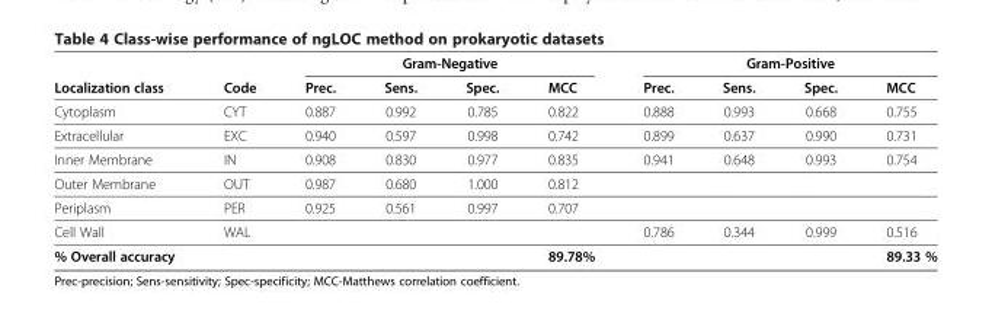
<table><thead><tr><td rowspan="2">Localization class</td><td rowspan="2">Code</td><td colspan="4">Gram-Negative</td><td colspan="4">Gram-Positive</td></tr><tr><td>Prec.</td><td>Sens.</td><td>Spec.</td><td>MCC</td><td>Prec.</td><td>Sens.</td><td>Spec.</td><td>MCC</td></tr></thead><tbody><tr><td>Cytoplasm</td><td>CYT</td><td>0.887</td><td>0.992</td><td>0.785</td><td>0.822</td><td>0.888</td><td>0.993</td><td>0.668</td><td>0.755</td></tr><tr><td>Extracellular</td><td>EXC</td><td>0.940</td><td>0.597</td><td>0.998</td><td>0.742</td><td>0.899</td><td>0.637</td><td>0.990</td><td>0.731</td></tr><tr><td>Inner Membrane</td><td>IN</td><td>0.908</td><td>0.830</td><td>0.977</td><td>0.835</td><td>0.941</td><td>0.648</td><td>0.993</td><td>0.754</td></tr><tr><td>Outer Membrane</td><td>OUT</td><td>0.987</td><td>0.680</td><td>1.000</td><td>0.812</td><td></td><td></td><td></td><td></td></tr><tr><td>Periplasm</td><td>PER</td><td>0.925</td><td>0.561</td><td>0.997</td><td>0.707</td><td></td><td></td><td></td><td></td></tr><tr><td>Cell Wall</td><td>WAL</td><td></td><td></td><td></td><td></td><td>0.786</td><td>0.344</td><td>0.999</td><td>0.516</td></tr><tr><td>% Overall accuracy</td><td></td><td></td><td></td><td></td><td>89.78%</td><td></td><td></td><td></td><td>89.33 %</td></tr></tbody></table>